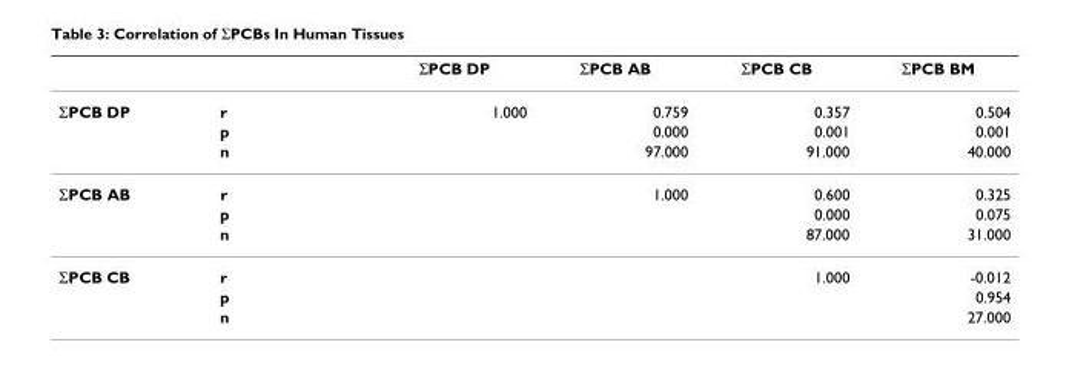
<table><thead><tr><td></td><td></td><td>ΣPCB DP</td><td>ΣPCB AB</td><td>ΣPCB CB</td><td>ΣPCB BM</td></tr></thead><tbody><tr><td rowspan="3">ΣPCB DP</td><td>r</td><td>1.000</td><td>0.759</td><td>0.357</td><td>0.504</td></tr><tr><td>p</td><td></td><td>0.000</td><td>0.001</td><td>0.001</td></tr><tr><td>n</td><td></td><td>97.000</td><td>91.000</td><td>40.000</td></tr><tr><td rowspan="3">ΣPCB AB</td><td>r</td><td></td><td>1.000</td><td>0.600</td><td>0.325</td></tr><tr><td>p</td><td></td><td></td><td>0.000</td><td>0.075</td></tr><tr><td>n</td><td></td><td></td><td>87.000</td><td>31.000</td></tr><tr><td rowspan="3">ΣPCB CB</td><td>r</td><td></td><td></td><td>1.000</td><td>-0.012</td></tr><tr><td>p</td><td></td><td></td><td></td><td>0.954</td></tr><tr><td>n</td><td></td><td></td><td></td><td>27.000</td></tr></tbody></table>